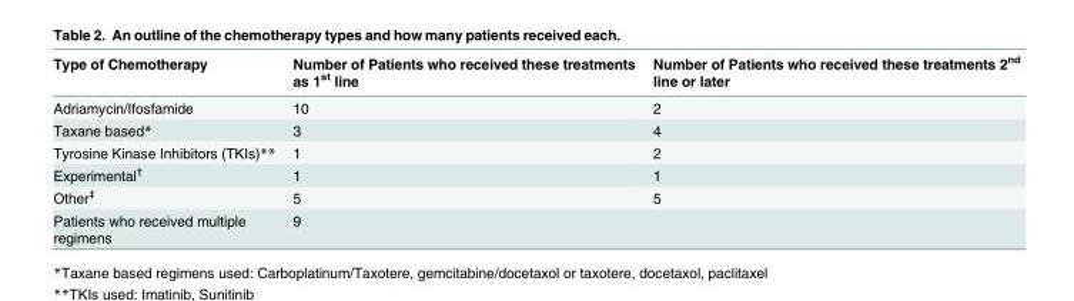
<table><thead><tr><td>Type of Chemotherapy</td><td>Number of Patients who received these treatments as 1<sup>st</sup> line</td><td>Number of Patients who received these treatments 2<sup>nd</sup> line or later</td></tr></thead><tbody><tr><td>Adriamycin/Ifosfamide</td><td>10</td><td>2</td></tr><tr><td>Taxane based*</td><td>3</td><td>4</td></tr><tr><td>Tyrosine Kinase Inhibitors (TKIs)**</td><td>1</td><td>2</td></tr><tr><td>Experimental<sup>†</sup></td><td>1</td><td>1</td></tr><tr><td>Other<sup>‡</sup></td><td>5</td><td>5</td></tr><tr><td>Patients who received multiple regimens</td><td>9</td><td></td></tr></tbody></table>